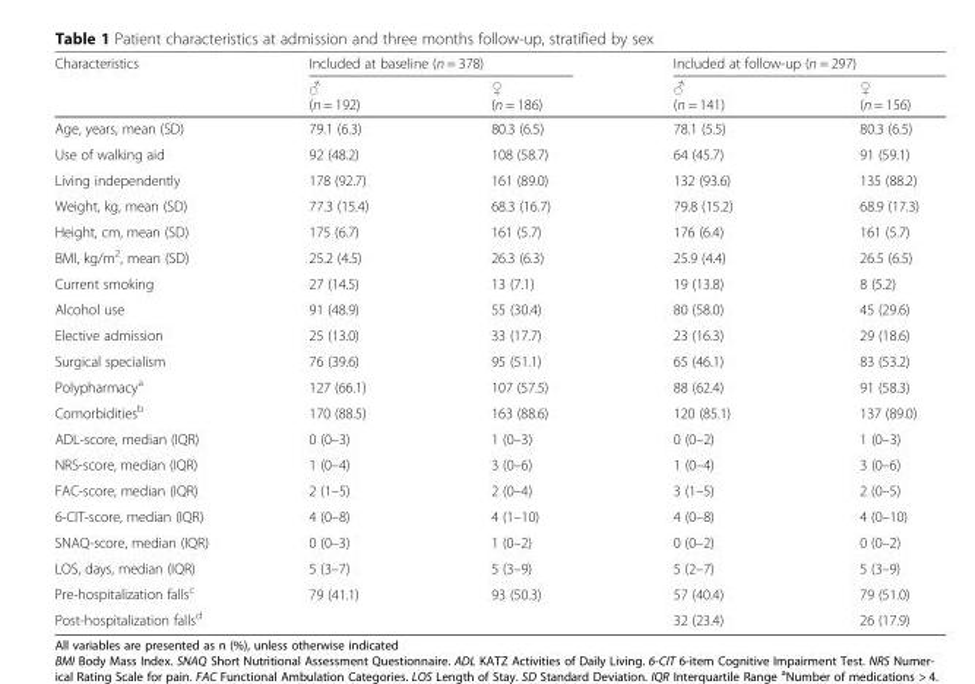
<table><thead><tr><td rowspan="2">Characteristics</td><td colspan="2">Included at baseline (n = 378)</td><td colspan="2">Included at follow-up (n = 297)</td></tr><tr><td>♂ (n = 192)</td><td>♀ (n = 186)</td><td>♂ (n = 141)</td><td>♀ (n = 156)</td></tr></thead><tbody><tr><td>Age, years, mean (SD)</td><td>79.1 (6.3)</td><td>80.3 (6.5)</td><td>78.1 (5.5)</td><td>80.3 (6.5)</td></tr><tr><td>Use of walking aid</td><td>92 (48.2)</td><td>108 (58.7)</td><td>64 (45.7)</td><td>91 (59.1)</td></tr><tr><td>Living independently</td><td>178 (92.7)</td><td>161 (89.0)</td><td>132 (93.6)</td><td>135 (88.2)</td></tr><tr><td>Weight, kg, mean (SD)</td><td>77.3 (15.4)</td><td>68.3 (16.7)</td><td>79.8 (15.2)</td><td>68.9 (17.3)</td></tr><tr><td>Height, cm, mean (SD)</td><td>175 (6.7)</td><td>161 (5.7)</td><td>176 (6.4)</td><td>161 (5.7)</td></tr><tr><td>BMI, kg/m<sup>2</sup>, mean (SD)</td><td>25.2 (4.5)</td><td>26.3 (6.3)</td><td>25.9 (4.4)</td><td>26.5 (6.5)</td></tr><tr><td>Current smoking</td><td>27 (14.5)</td><td>13 (7.1)</td><td>19 (13.8)</td><td>8 (5.2)</td></tr><tr><td>Alcohol use</td><td>91 (48.9)</td><td>55 (30.4)</td><td>80 (58.0)</td><td>45 (29.6)</td></tr><tr><td>Elective admission</td><td>25 (13.0)</td><td>33 (17.7)</td><td>23 (16.3)</td><td>29 (18.6)</td></tr><tr><td>Surgical specialism</td><td>76 (39.6)</td><td>95 (51.1)</td><td>65 (46.1)</td><td>83 (53.2)</td></tr><tr><td>Polypharmacy<sup>a</sup></td><td>127 (66.1)</td><td>107 (57.5)</td><td>88 (62.4)</td><td>91 (58.3)</td></tr><tr><td>Comorbidities<sup>b</sup></td><td>170 (88.5)</td><td>163 (88.6)</td><td>120 (85.1)</td><td>137 (89.0)</td></tr><tr><td>ADL-score, median (IQR)</td><td>0 (0–3)</td><td>1 (0–3)</td><td>0 (0–2)</td><td>1 (0–3)</td></tr><tr><td>NRS-score, median (IQR)</td><td>1 (0–4)</td><td>3 (0–6)</td><td>1 (0–4)</td><td>3 (0–6)</td></tr><tr><td>FAC-score, median (IQR)</td><td>2 (1–5)</td><td>2 (0–4)</td><td>3 (1–5)</td><td>2 (0–5)</td></tr><tr><td>6-CIT-score, median (IQR)</td><td>4 (0–8)</td><td>4 (1–10)</td><td>4 (0–8)</td><td>4 (0–10)</td></tr><tr><td>SNAQ-score, median (IQR)</td><td>0 (0–3)</td><td>1 (0–2)</td><td>0 (0–2)</td><td>0 (0–2)</td></tr><tr><td>LOS, days, median (IQR)</td><td>5 (3–7)</td><td>5 (3–9)</td><td>5 (2–7)</td><td>5 (3–9)</td></tr><tr><td>Pre-hospitalization falls<sup>c</sup></td><td>79 (41.1)</td><td>93 (50.3)</td><td>57 (40.4)</td><td>79 (51.0)</td></tr><tr><td>Post-hospitalization falls<sup>d</sup></td><td></td><td></td><td>32 (23.4)</td><td>26 (17.9)</td></tr></tbody></table>